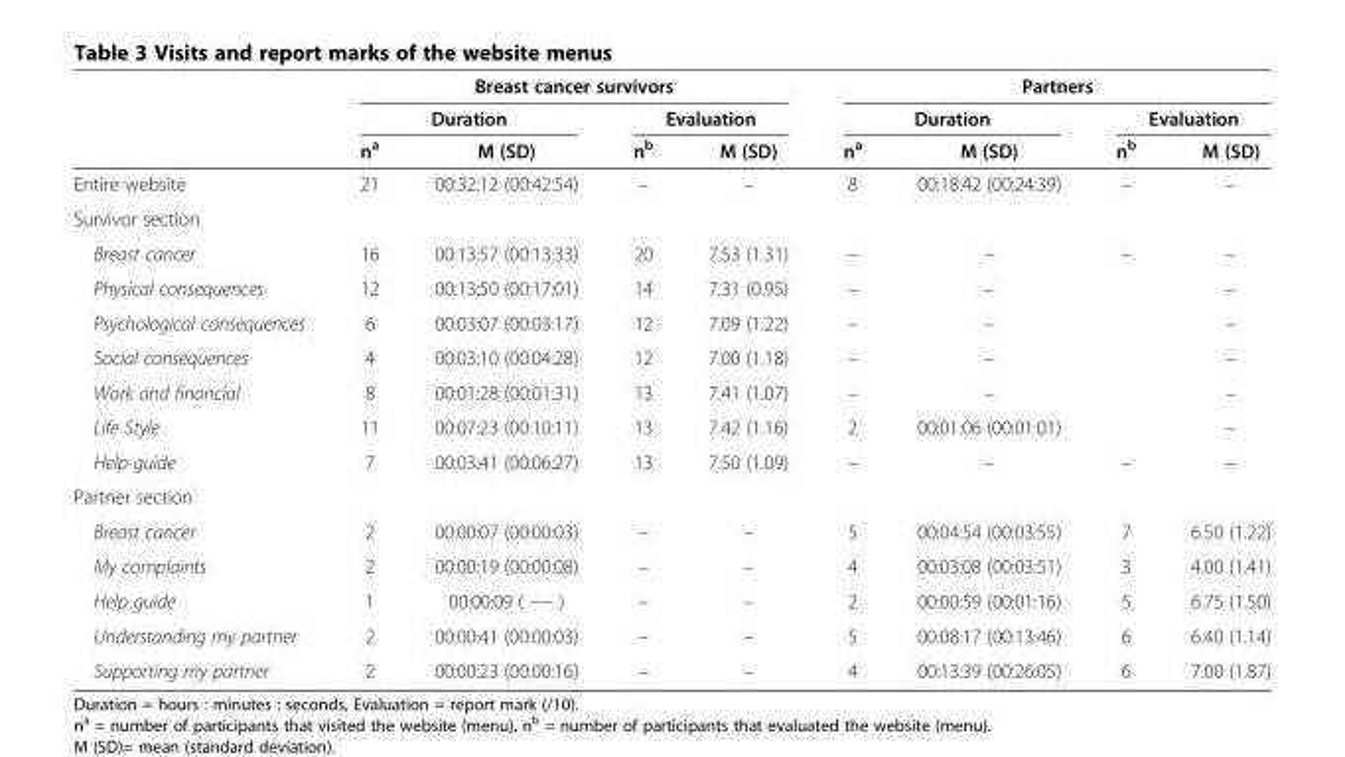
<table><thead><tr><td rowspan="3"></td><td colspan="4">Breast cancer survivors</td><td colspan="4">Partners</td></tr><tr><td colspan="2">Duration</td><td colspan="2">Evaluation</td><td colspan="2">Duration</td><td colspan="2">Evaluation</td></tr><tr><td>n<sup>a</sup></td><td>M (SD)</td><td>n<sup>b</sup></td><td>M (SD)</td><td>n<sup>a</sup></td><td>M (SD)</td><td>n<sup>b</sup></td><td>M (SD)</td></tr></thead><tbody><tr><td>Entire website</td><td>21</td><td>00:32:12 (00:42:54)</td><td>–</td><td>–</td><td>8</td><td>00:18:42 (00:24:39)</td><td>–</td><td>–</td></tr><tr><td colspan="9">Survivor section</td></tr><tr><td>Breast cancer</td><td>16</td><td>00:13:57 (00:13:33)</td><td>20</td><td>7.53 (1.31)</td><td>–</td><td>–</td><td>–</td><td>–</td></tr><tr><td>Physical consequences</td><td>12</td><td>00:13:50 (00:17:01)</td><td>14</td><td>7.31 (0.95)</td><td>–</td><td>–</td><td></td><td>–</td></tr><tr><td>Psychological consequences</td><td>6</td><td>00:03:07 (00:03:17)</td><td>12</td><td>7.09 (1.22)</td><td>–</td><td>–</td><td></td><td>–</td></tr><tr><td>Social consequences</td><td>4</td><td>00:03:10 (00:04:28)</td><td>12</td><td>7.00 (1.18)</td><td>–</td><td>–</td><td></td><td>–</td></tr><tr><td>Work and financial</td><td>8</td><td>00:01:28 (00:01:31)</td><td>13</td><td>7.41 (1.07)</td><td>–</td><td>–</td><td></td><td>–</td></tr><tr><td>Life Style</td><td>11</td><td>00:07:23 (00:10:11)</td><td>13</td><td>7.42 (1.16)</td><td>2</td><td>00:01:06 (00:01:01)</td><td></td><td>–</td></tr><tr><td>Help guide</td><td>7</td><td>00:03:41 (00:06:27)</td><td>13</td><td>7.50 (1.09)</td><td>–</td><td>–</td><td>–</td><td>–</td></tr><tr><td colspan="9">Partner section</td></tr><tr><td>Breast cancer</td><td>2</td><td>00:00:07 (00:00:03)</td><td>–</td><td>–</td><td>5</td><td>00:04:54 (00:03:55)</td><td>7</td><td>6.50 (1.22)</td></tr><tr><td>My complaints</td><td>2</td><td>00:00:19 (00:00:08)</td><td>–</td><td>–</td><td>4</td><td>00:03:08 (00:03:51)</td><td>3</td><td>4.00 (1.41)</td></tr><tr><td>Help guide</td><td>1</td><td>00:00:09 ( −− )</td><td>–</td><td>–</td><td>2</td><td>00:00:59 (00:01:16)</td><td>5</td><td>6.75 (1.50)</td></tr><tr><td>Understanding my partner</td><td>2</td><td>00:00:41 (00:00:03)</td><td>–</td><td>–</td><td>5</td><td>00:08:17 (00:13:46)</td><td>6</td><td>6.40 (1.14)</td></tr><tr><td>Supporting my partner</td><td>2</td><td>00:00:23 (00:00:16)</td><td>–</td><td>–</td><td>4</td><td>00:13:39 (00:26:05)</td><td>6</td><td>7.00 (1.87)</td></tr></tbody></table>